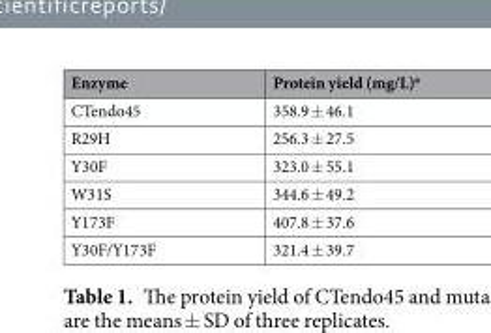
<table><thead><tr><td>Enzyme</td><td>Protein yield (mg/L)<sup>a</sup></td></tr></thead><tbody><tr><td>CTendo45</td><td>358.9 ± 46.1</td></tr><tr><td>R29H</td><td>256.3 ± 27.5</td></tr><tr><td>Y30F</td><td>323.0 ± 55.1</td></tr><tr><td>W31S</td><td>344.6 ± 49.2</td></tr><tr><td>Y173F</td><td>407.8 ± 37.6</td></tr><tr><td>Y30F/Y173F</td><td>321.4 ± 39.7</td></tr></tbody></table>